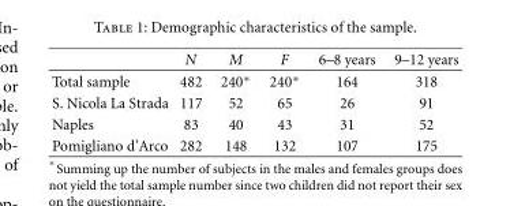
<table><thead><tr><td></td><td>N</td><td>M</td><td>F</td><td>6–8 years</td><td>9–12 years</td></tr></thead><tbody><tr><td>Total sample</td><td>482</td><td>240∗</td><td>240∗</td><td>164</td><td>318</td></tr><tr><td>S. Nicola La Strada</td><td>117</td><td>52</td><td>65</td><td>26</td><td>91</td></tr><tr><td>Naples</td><td>83</td><td>40</td><td>43</td><td>31</td><td>52</td></tr><tr><td>Pomigliano d’Arco</td><td>282</td><td>148</td><td>132</td><td>107</td><td>175</td></tr></tbody></table>